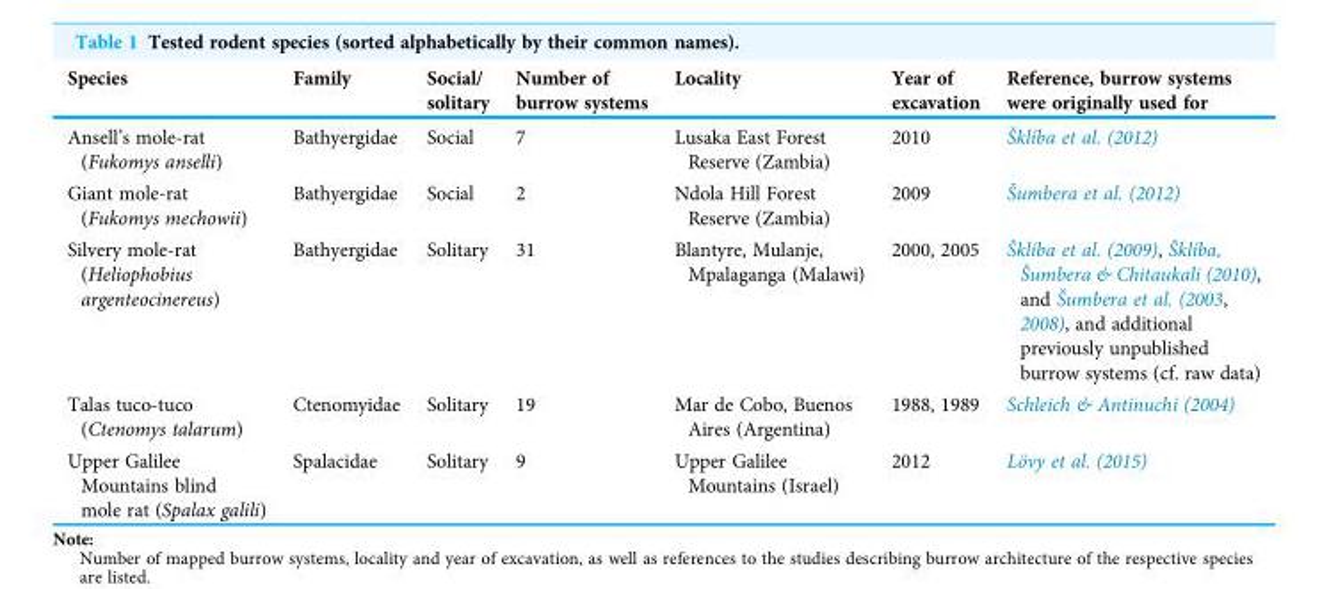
<table><thead><tr><td>Species</td><td>Family</td><td>Social/ solitary</td><td>Number of burrow systems</td><td>Locality</td><td>Year of excavation</td><td>Reference, burrow systems were originally used for</td></tr></thead><tbody><tr><td>Ansell’s mole-rat (Fukomys anselli)</td><td>Bathyergidae</td><td>Social</td><td>7</td><td>Lusaka East Forest Reserve (Zambia)</td><td>2010</td><td>Šklíba et al. (2012)</td></tr><tr><td>Giant mole-rat (Fukomys mechowii)</td><td>Bathyergidae</td><td>Social</td><td>2</td><td>Ndola Hill Forest Reserve (Zambia)</td><td>2009</td><td>Šumbera et al. (2012)</td></tr><tr><td>Silvery mole-rat (Heliophobius argenteocinereus)</td><td>Bathyergidae</td><td>Solitary</td><td>31</td><td>Blantyre, Mulanje, Mpalaganga (Malawi)</td><td>2000, 2005</td><td>Šklíba et al. (2009), Šklíba, Šumbera &amp; Chitaukali (2010), and Šumbera et al. (2003, 2008), and additional previously unpublished burrow systems (cf. raw data)</td></tr><tr><td>Talas tuco-tuco (Ctenomys talarum)</td><td>Ctenomyidae</td><td>Solitary</td><td>19</td><td>Mar de Cobo, Buenos Aires (Argentina)</td><td>1988, 1989</td><td>Schleich &amp; Antinuchi (2004)</td></tr><tr><td>Upper Galilee Mountains blind mole rat (Spalax galili)</td><td>Spalacidae</td><td>Solitary</td><td>9</td><td>Upper Galilee Mountains (Israel)</td><td>2012</td><td>Lövy et al. (2015)</td></tr></tbody></table>